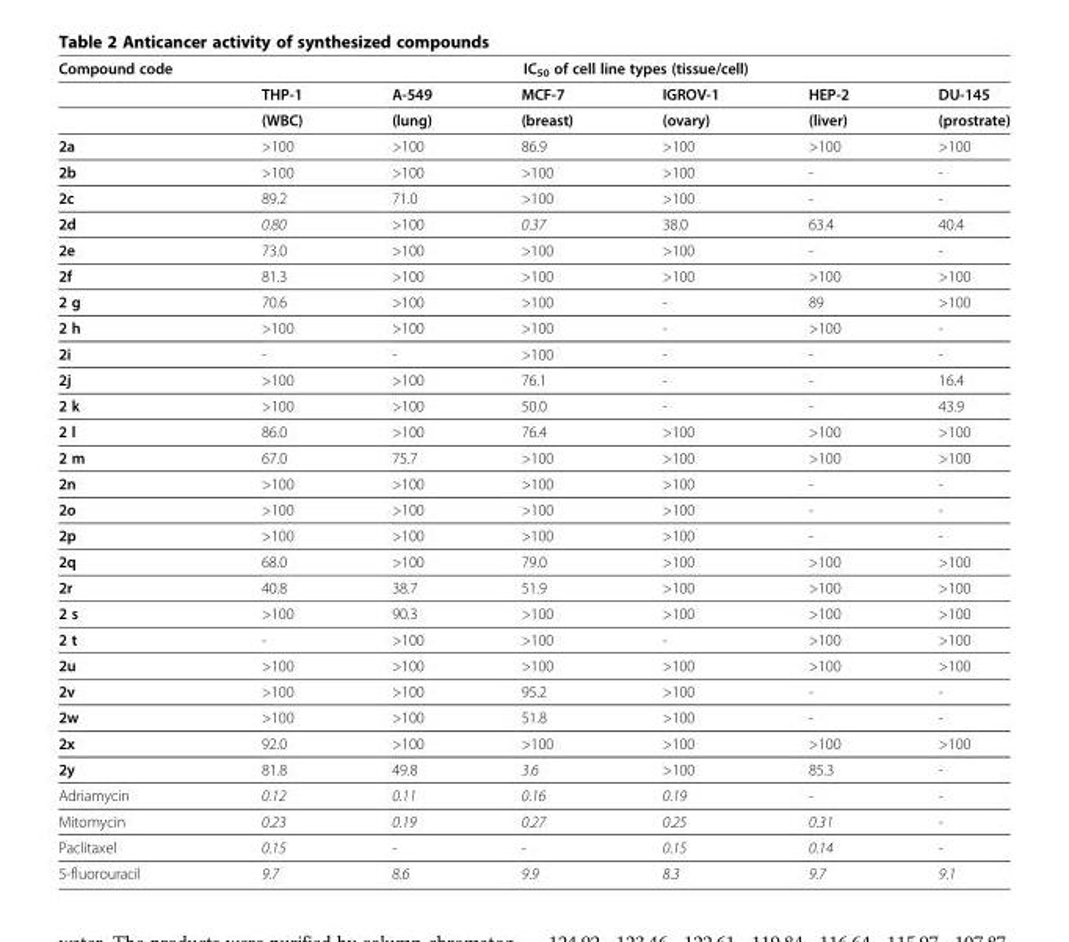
<table><thead><tr><td rowspan="3">Compound code</td><td rowspan="3">THP-1 (WBC)</td><td rowspan="3">A-549 (lung)</td><td colspan="4">IC<sub>50</sub> of cell line types (tissue/cell)</td></tr><tr><td rowspan="2">MCF-7 (breast)</td><td rowspan="2">IGROV-1 (ovary)</td><td rowspan="2">HEP-2 (liver)</td><td rowspan="2">DU-145 (prostrate)</td></tr><tr></tr></thead><tbody><tr><td>2a</td><td>&gt;100</td><td>&gt;100</td><td>86.9</td><td>&gt;100</td><td>&gt;100</td><td>&gt;100</td></tr><tr><td>2b</td><td>&gt;100</td><td>&gt;100</td><td>&gt;100</td><td>&gt;100</td><td>-</td><td>-</td></tr><tr><td>2c</td><td>89.2</td><td>71.0</td><td>&gt;100</td><td>&gt;100</td><td>-</td><td>-</td></tr><tr><td>2d</td><td>0.80</td><td>&gt;100</td><td>0.37</td><td>38.0</td><td>63.4</td><td>40.4</td></tr><tr><td>2e</td><td>73.0</td><td>&gt;100</td><td>&gt;100</td><td>&gt;100</td><td>-</td><td>-</td></tr><tr><td>2f</td><td>81.3</td><td>&gt;100</td><td>&gt;100</td><td>&gt;100</td><td>&gt;100</td><td>&gt;100</td></tr><tr><td>2 g</td><td>70.6</td><td>&gt;100</td><td>&gt;100</td><td>-</td><td>89</td><td>&gt;100</td></tr><tr><td>2 h</td><td>&gt;100</td><td>&gt;100</td><td>&gt;100</td><td>-</td><td>&gt;100</td><td>-</td></tr><tr><td>2i</td><td>-</td><td>-</td><td>&gt;100</td><td>-</td><td>-</td><td>-</td></tr><tr><td>2j</td><td>&gt;100</td><td>&gt;100</td><td>76.1</td><td>-</td><td>-</td><td>16.4</td></tr><tr><td>2 k</td><td>&gt;100</td><td>&gt;100</td><td>50.0</td><td>-</td><td>-</td><td>43.9</td></tr><tr><td>2 l</td><td>86.0</td><td>&gt;100</td><td>76.4</td><td>&gt;100</td><td>&gt;100</td><td>&gt;100</td></tr><tr><td>2 m</td><td>67.0</td><td>75.7</td><td>&gt;100</td><td>&gt;100</td><td>&gt;100</td><td>&gt;100</td></tr><tr><td>2n</td><td>&gt;100</td><td>&gt;100</td><td>&gt;100</td><td>&gt;100</td><td>-</td><td>-</td></tr><tr><td>2o</td><td>&gt;100</td><td>&gt;100</td><td>&gt;100</td><td>&gt;100</td><td>-</td><td>-</td></tr><tr><td>2p</td><td>&gt;100</td><td>&gt;100</td><td>&gt;100</td><td>&gt;100</td><td>-</td><td>-</td></tr><tr><td>2q</td><td>68.0</td><td>&gt;100</td><td>79.0</td><td>&gt;100</td><td>&gt;100</td><td>&gt;100</td></tr><tr><td>2r</td><td>40.8</td><td>38.7</td><td>51.9</td><td>&gt;100</td><td>&gt;100</td><td>&gt;100</td></tr><tr><td>2 s</td><td>&gt;100</td><td>90.3</td><td>&gt;100</td><td>&gt;100</td><td>&gt;100</td><td>&gt;100</td></tr><tr><td>2 t</td><td>-</td><td>&gt;100</td><td>&gt;100</td><td>-</td><td>&gt;100</td><td>&gt;100</td></tr><tr><td>2u</td><td>&gt;100</td><td>&gt;100</td><td>&gt;100</td><td>&gt;100</td><td>&gt;100</td><td>&gt;100</td></tr><tr><td>2v</td><td>&gt;100</td><td>&gt;100</td><td>95.2</td><td>&gt;100</td><td>-</td><td>-</td></tr><tr><td>2w</td><td>&gt;100</td><td>&gt;100</td><td>51.8</td><td>&gt;100</td><td>-</td><td>-</td></tr><tr><td>2x</td><td>92.0</td><td>&gt;100</td><td>&gt;100</td><td>&gt;100</td><td>&gt;100</td><td>&gt;100</td></tr><tr><td>2y</td><td>81.8</td><td>49.8</td><td>3.6</td><td>&gt;100</td><td>85.3</td><td>-</td></tr><tr><td>Adriamycin</td><td>0.12</td><td>0.11</td><td>0.16</td><td>0.19</td><td>-</td><td>-</td></tr><tr><td>Mitomycin</td><td>0.23</td><td>0.19</td><td>0.27</td><td>0.25</td><td>0.31</td><td>-</td></tr><tr><td>Paclitaxel</td><td>0.15</td><td>-</td><td>-</td><td>0.15</td><td>0.14</td><td>-</td></tr><tr><td>5-fluorouracil</td><td>9.7</td><td>8.6</td><td>9.9</td><td>8.3</td><td>9.7</td><td>9.1</td></tr></tbody></table>